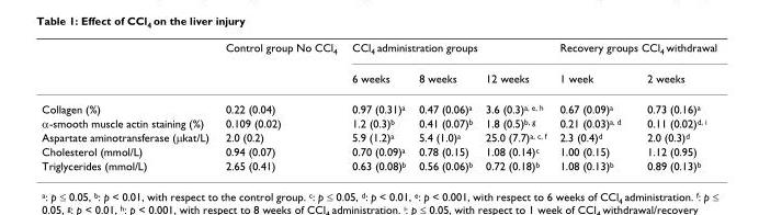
<table><thead><tr><td rowspan="2"></td><td rowspan="2">Control group No CCl<sub>4</sub></td><td colspan="3">CCl<sub>4</sub> administration groups</td><td colspan="2">Recovery groups CCl<sub>4</sub> withdrawal</td></tr><tr><td>6 weeks</td><td>8 weeks</td><td>12 weeks</td><td>1 week</td><td>2 weeks</td></tr></thead><tbody><tr><td>Collagen (%)</td><td>0.22 (0.04)</td><td>0.97 (0.31)<sup>a</sup></td><td>0.47 (0.06)<sup>a</sup></td><td>3.6 (0.3)<sup>a, e, h</sup></td><td>0.67 (0.09)<sup>a</sup></td><td>0.73 (0.16)<sup>a</sup></td></tr><tr><td>α-smooth muscle actin staining (%)</td><td>0.109 (0.02)</td><td>1.2 (0.3)<sup>b</sup></td><td>0.41 (0.07)<sup>b</sup></td><td>1.8 (0.5)<sup>b, g</sup></td><td>0.21 (0.03)<sup>a, d</sup></td><td>0.11 (0.02)<sup>d, i</sup></td></tr><tr><td>Aspartate aminotransferase (μkat/L)</td><td>2.0 (0.2)</td><td>5.9 (1.2)<sup>a</sup></td><td>5.4 (1.0)<sup>a</sup></td><td>25.0 (7.7)<sup>a, c, f</sup></td><td>2.3 (0.4)<sup>d</sup></td><td>2.0 (0.3)<sup>d</sup></td></tr><tr><td>Cholesterol (mmol/L)</td><td>0.94 (0.07)</td><td>0.70 (0.09)<sup>a</sup></td><td>0.78 (0.15)</td><td>1.08 (0.14)<sup>c</sup></td><td>1.00 (0.15)</td><td>1.12 (0.95)</td></tr><tr><td>Triglycerides (mmol/L)</td><td>2.65 (0.41)</td><td>0.63 (0.08)<sup>b</sup></td><td>0.56 (0.06)<sup>b</sup></td><td>0.72 (0.18)<sup>b</sup></td><td>1.08 (0.13)<sup>b</sup></td><td>0.89 (0.13)<sup>b</sup></td></tr></tbody></table>